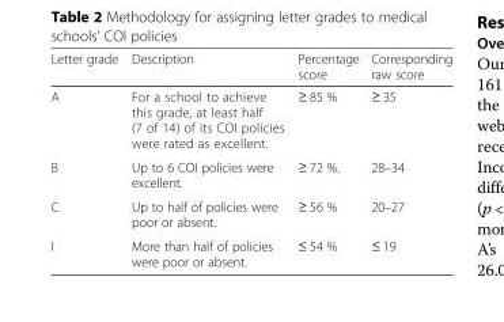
<table><thead><tr><td>Letter grade</td><td>Description</td><td>Percentage score</td><td>Corresponding raw score</td></tr></thead><tbody><tr><td>A</td><td>For a school to achieve this grade, at least half (7 of 14) of its COI policies were rated as excellent.</td><td>≥ 85 %</td><td>≥ 35</td></tr><tr><td>B</td><td>Up to 6 COI policies were excellent.</td><td>≥ 72 %.</td><td>28–34</td></tr><tr><td>C</td><td>Up to half of policies were poor or absent.</td><td>≥ 56 %</td><td>20–27</td></tr><tr><td>I</td><td>More than half of policies were poor or absent.</td><td>≤ 54 %</td><td>≤ 19</td></tr></tbody></table>